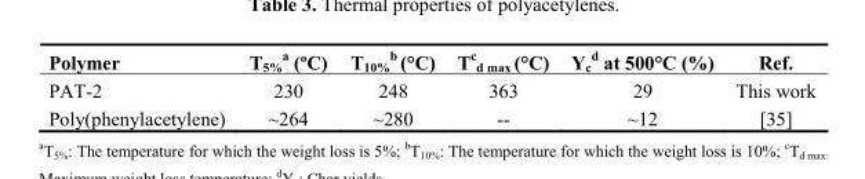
<table><thead><tr><td>Polymer</td><td>T5% a (ºC)</td><td>T<sub>10%</sub> <sup>b</sup> (°C)</td><td>T<sup>c</sup> <sub>d max</sub> (°C)</td><td>Y<sub>c</sub> <sup>d</sup> at 500°C (%)</td><td>Ref.</td></tr></thead><tbody><tr><td>PAT-2</td><td>230</td><td>248</td><td>363</td><td>29</td><td>This work</td></tr><tr><td>Poly(phenylacetylene)</td><td>~264</td><td>~280</td><td>--</td><td>~12</td><td>[35]</td></tr></tbody></table>